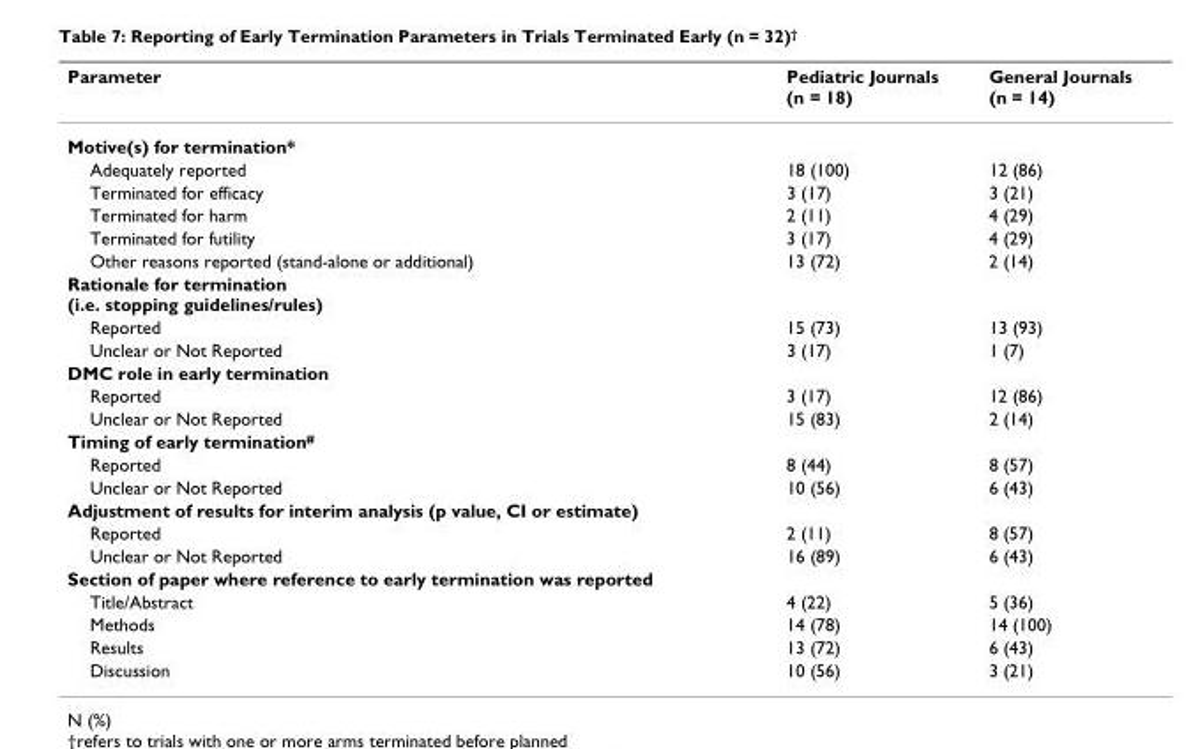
<table><thead><tr><td>Parameter</td><td>Pediatric Journals (n = 18)</td><td>General Journals (n = 14)</td></tr></thead><tbody><tr><td colspan="3">Motive(s) for termination*</td></tr><tr><td>Adequately reported</td><td>18 (100)</td><td>12 (86)</td></tr><tr><td>Terminated for efficacy</td><td>3 (17)</td><td>3 (21)</td></tr><tr><td>Terminated for harm</td><td>2 (11)</td><td>4 (29)</td></tr><tr><td>Terminated for futility</td><td>3 (17)</td><td>4 (29)</td></tr><tr><td>Other reasons reported (stand-alone or additional)</td><td>13 (72)</td><td>2 (14)</td></tr><tr><td colspan="3">Rationale for termination (i.e. stopping guidelines/rules)</td></tr><tr><td>Reported</td><td>15 (73)</td><td>13 (93)</td></tr><tr><td>Unclear or Not Reported</td><td>3 (17)</td><td>1 (7)</td></tr><tr><td colspan="3">DMC role in early termination</td></tr><tr><td>Reported</td><td>3 (17)</td><td>12 (86)</td></tr><tr><td>Unclear or Not Reported</td><td>15 (83)</td><td>2 (14)</td></tr><tr><td colspan="3">Timing of early termination<sup>#</sup></td></tr><tr><td>Reported</td><td>8 (44)</td><td>8 (57)</td></tr><tr><td>Unclear or Not Reported</td><td>10 (56)</td><td>6 (43)</td></tr><tr><td colspan="3">Adjustment of results for interim analysis (p value, CI or estimate)</td></tr><tr><td>Reported</td><td>2 (11)</td><td>8 (57)</td></tr><tr><td>Unclear or Not Reported</td><td>16 (89)</td><td>6 (43)</td></tr><tr><td colspan="3">Section of paper where reference to early termination was reported</td></tr><tr><td>Title/Abstract</td><td>4 (22)</td><td>5 (36)</td></tr><tr><td>Methods</td><td>14 (78)</td><td>14 (100)</td></tr><tr><td>Results</td><td>13 (72)</td><td>6 (43)</td></tr><tr><td>Discussion</td><td>10 (56)</td><td>3 (21)</td></tr></tbody></table>